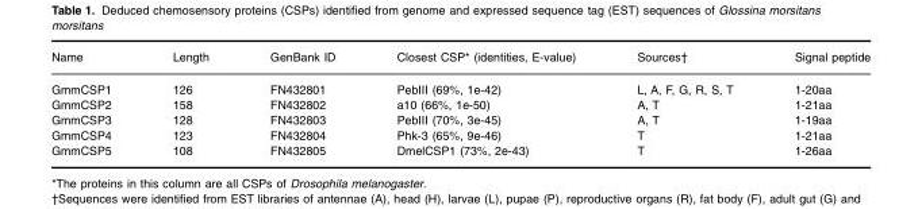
<table><thead><tr><td>Name</td><td>Length</td><td>GenBank ID</td><td>Closest CSP* (identities, E-value)</td><td>Sources†</td><td>Signal peptide</td></tr></thead><tbody><tr><td>GmmCSP1</td><td>126</td><td>FN432801</td><td>PebIII (69%, 1e-42)</td><td>L, A, F, G, R, S, T</td><td>1-20aa</td></tr><tr><td>GmmCSP2</td><td>158</td><td>FN432802</td><td>a10 (66%, 1e-50)</td><td>A, T</td><td>1-21aa</td></tr><tr><td>GmmCSP3</td><td>128</td><td>FN432803</td><td>PebIII (70%, 3e-45)</td><td>A, T</td><td>1-19aa</td></tr><tr><td>GmmCSP4</td><td>123</td><td>FN432804</td><td>Phk-3 (65%, 9e-46)</td><td>T</td><td>1-21aa</td></tr><tr><td>GmmCSP5</td><td>108</td><td>FN432805</td><td>DmelCSP1 (73%, 2e-43)</td><td>T</td><td>1-26aa</td></tr></tbody></table>